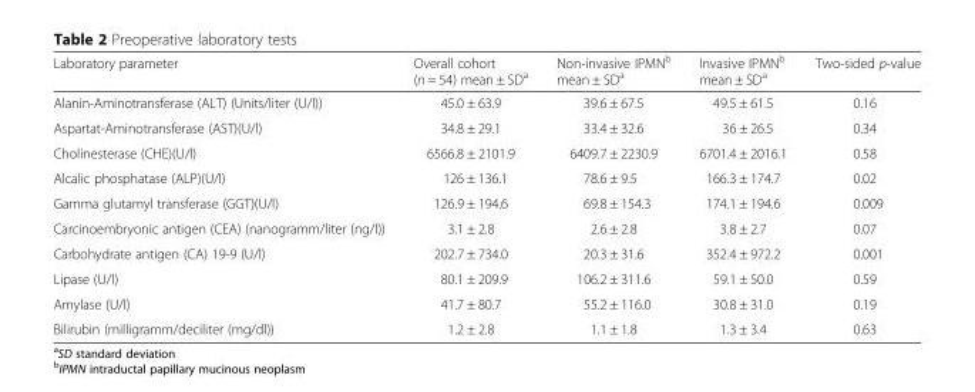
<table><thead><tr><td>Laboratory parameter</td><td>Overall cohort (n = 54) mean ± SD<sup>a</sup></td><td>Non-invasive IPMN<sup>b</sup> mean ± SD<sup>a</sup></td><td>Invasive IPMN<sup>b</sup> mean ± SD<sup>a</sup></td><td>Two-sided p-value</td></tr></thead><tbody><tr><td>Alanin-Aminotransferase (ALT) (Units/liter (U/l))</td><td>45.0 ± 63.9</td><td>39.6 ± 67.5</td><td>49.5 ± 61.5</td><td>0.16</td></tr><tr><td>Aspartat-Aminotransferase (AST)(U/l)</td><td>34.8 ± 29.1</td><td>33.4 ± 32.6</td><td>36 ± 26.5</td><td>0.34</td></tr><tr><td>Cholinesterase (CHE)(U/l)</td><td>6566.8 ± 2101.9</td><td>6409.7 ± 2230.9</td><td>6701.4 ± 2016.1</td><td>0.58</td></tr><tr><td>Alcalic phosphatase (ALP)(U/l)</td><td>126 ± 136.1</td><td>78.6 ± 9.5</td><td>166.3 ± 174.7</td><td>0.02</td></tr><tr><td>Gamma glutamyl transferase (GGT)(U/l)</td><td>126.9 ± 194.6</td><td>69.8 ± 154.3</td><td>174.1 ± 194.6</td><td>0.009</td></tr><tr><td>Carcinoembryonic antigen (CEA) (nanogramm/liter (ng/l))</td><td>3.1 ± 2.8</td><td>2.6 ± 2.8</td><td>3.8 ± 2.7</td><td>0.07</td></tr><tr><td>Carbohydrate antigen (CA) 19-9 (U/l)</td><td>202.7 ± 734.0</td><td>20.3 ± 31.6</td><td>352.4 ± 972.2</td><td>0.001</td></tr><tr><td>Lipase (U/l)</td><td>80.1 ± 209.9</td><td>106.2 ± 311.6</td><td>59.1 ± 50.0</td><td>0.59</td></tr><tr><td>Amylase (U/l)</td><td>41.7 ± 80.7</td><td>55.2 ± 116.0</td><td>30.8 ± 31.0</td><td>0.19</td></tr><tr><td>Bilirubin (milligramm/deciliter (mg/dl))</td><td>1.2 ± 2.8</td><td>1.1 ± 1.8</td><td>1.3 ± 3.4</td><td>0.63</td></tr></tbody></table>